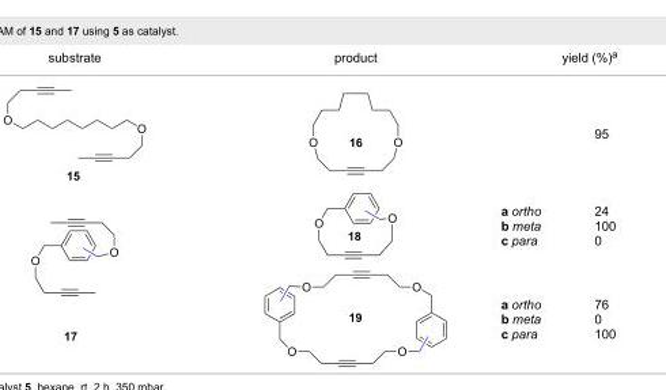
<table><tbody><tr><td rowspan="4">substrate</td><td>product</td><td colspan="2">yield (%)<sup>a</sup></td></tr><tr><td></td><td></td><td>95</td></tr><tr><td></td><td>a ortho b meta c para</td><td>24 100 0</td></tr><tr><td></td><td>a ortho b meta c para</td><td>76 0 100</td></tr></tbody></table>